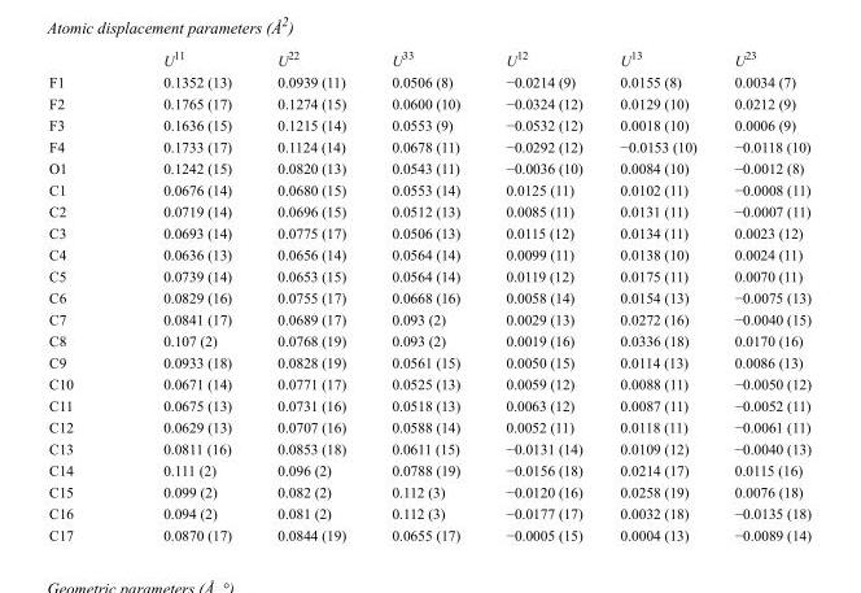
<table><thead><tr><td></td><td>U<sup>11</sup></td><td>U<sup>22</sup></td><td>U<sup>33</sup></td><td>U<sup>12</sup></td><td>U<sup>13</sup></td><td>U<sup>23</sup></td></tr></thead><tbody><tr><td>F1</td><td>0.1352 (13)</td><td>0.0939 (11)</td><td>0.0506 (8)</td><td>−0.0214 (9)</td><td>0.0155 (8)</td><td>0.0034 (7)</td></tr><tr><td>F2</td><td>0.1765 (17)</td><td>0.1274 (15)</td><td>0.0600 (10)</td><td>−0.0324 (12)</td><td>0.0129 (10)</td><td>0.0212 (9)</td></tr><tr><td>F3</td><td>0.1636 (15)</td><td>0.1215 (14)</td><td>0.0553 (9)</td><td>−0.0532 (12)</td><td>0.0018 (10)</td><td>0.0006 (9)</td></tr><tr><td>F4</td><td>0.1733 (17)</td><td>0.1124 (14)</td><td>0.0678 (11)</td><td>−0.0292 (12)</td><td>−0.0153 (10)</td><td>−0.0118 (10)</td></tr><tr><td>O1</td><td>0.1242 (15)</td><td>0.0820 (13)</td><td>0.0543 (11)</td><td>−0.0036 (10)</td><td>0.0084 (10)</td><td>−0.0012 (8)</td></tr><tr><td>C1</td><td>0.0676 (14)</td><td>0.0680 (15)</td><td>0.0553 (14)</td><td>0.0125 (11)</td><td>0.0102 (11)</td><td>−0.0008 (11)</td></tr><tr><td>C2</td><td>0.0719 (14)</td><td>0.0696 (15)</td><td>0.0512 (13)</td><td>0.0085 (11)</td><td>0.0131 (11)</td><td>−0.0007 (11)</td></tr><tr><td>C3</td><td>0.0693 (14)</td><td>0.0775 (17)</td><td>0.0506 (13)</td><td>0.0115 (12)</td><td>0.0134 (11)</td><td>0.0023 (12)</td></tr><tr><td>C4</td><td>0.0636 (13)</td><td>0.0656 (14)</td><td>0.0564 (14)</td><td>0.0099 (11)</td><td>0.0138 (10)</td><td>0.0024 (11)</td></tr><tr><td>C5</td><td>0.0739 (14)</td><td>0.0653 (15)</td><td>0.0564 (14)</td><td>0.0119 (12)</td><td>0.0175 (11)</td><td>0.0070 (11)</td></tr><tr><td>C6</td><td>0.0829 (16)</td><td>0.0755 (17)</td><td>0.0668 (16)</td><td>0.0058 (14)</td><td>0.0154 (13)</td><td>−0.0075 (13)</td></tr><tr><td>C7</td><td>0.0841 (17)</td><td>0.0689 (17)</td><td>0.093 (2)</td><td>0.0029 (13)</td><td>0.0272 (16)</td><td>−0.0040 (15)</td></tr><tr><td>C8</td><td>0.107 (2)</td><td>0.0768 (19)</td><td>0.093 (2)</td><td>0.0019 (16)</td><td>0.0336 (18)</td><td>0.0170 (16)</td></tr><tr><td>C9</td><td>0.0933 (18)</td><td>0.0828 (19)</td><td>0.0561 (15)</td><td>0.0050 (15)</td><td>0.0114 (13)</td><td>0.0086 (13)</td></tr><tr><td>C10</td><td>0.0671 (14)</td><td>0.0771 (17)</td><td>0.0525 (13)</td><td>0.0059 (12)</td><td>0.0088 (11)</td><td>−0.0050 (12)</td></tr><tr><td>C11</td><td>0.0675 (13)</td><td>0.0731 (16)</td><td>0.0518 (13)</td><td>0.0063 (12)</td><td>0.0087 (11)</td><td>−0.0052 (11)</td></tr><tr><td>C12</td><td>0.0629 (13)</td><td>0.0707 (16)</td><td>0.0588 (14)</td><td>0.0052 (11)</td><td>0.0118 (11)</td><td>−0.0061 (11)</td></tr><tr><td>C13</td><td>0.0811 (16)</td><td>0.0853 (18)</td><td>0.0611 (15)</td><td>−0.0131 (14)</td><td>0.0109 (12)</td><td>−0.0040 (13)</td></tr><tr><td>C14</td><td>0.111 (2)</td><td>0.096 (2)</td><td>0.0788 (19)</td><td>−0.0156 (18)</td><td>0.0214 (17)</td><td>0.0115 (16)</td></tr><tr><td>C15</td><td>0.099 (2)</td><td>0.082 (2)</td><td>0.112 (3)</td><td>−0.0120 (16)</td><td>0.0258 (19)</td><td>0.0076 (18)</td></tr><tr><td>C16</td><td>0.094 (2)</td><td>0.081 (2)</td><td>0.112 (3)</td><td>−0.0177 (17)</td><td>0.0032 (18)</td><td>−0.0135 (18)</td></tr><tr><td>C17</td><td>0.0870 (17)</td><td>0.0844 (19)</td><td>0.0655 (17)</td><td>−0.0005 (15)</td><td>0.0004 (13)</td><td>−0.0089 (14)</td></tr></tbody></table>